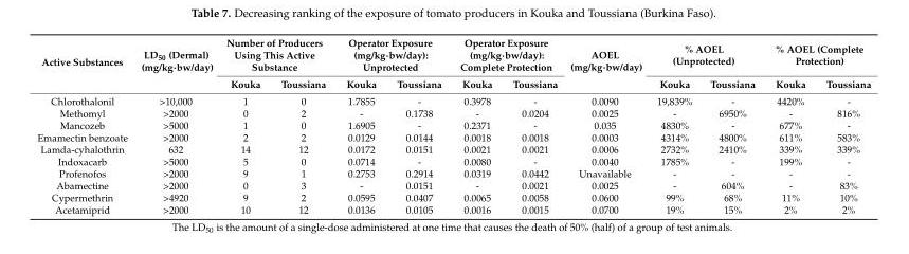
<table><thead><tr><td rowspan="2">Active Substances</td><td rowspan="2">LD<sub>50</sub> (Dermal) (mg/kg·bw/day)</td><td colspan="2">Number of Producers Using This Active Substance</td><td colspan="2">Operator Exposure (mg/kg·bw/day): Unprotected</td><td colspan="2">Operator Exposure (mg/kg·bw/day): Complete Protection</td><td rowspan="2">AOEL (mg/kg·bw/day)</td><td colspan="2">% AOEL (Unprotected)</td><td colspan="2">% AOEL (Complete Protection)</td></tr><tr><td>Kouka</td><td>Toussiana</td><td>Kouka</td><td>Toussiana</td><td>Kouka</td><td>Toussiana</td><td>Kouka</td><td>Toussiana</td><td>Kouka</td><td>Toussiana</td></tr></thead><tbody><tr><td>Chlorothalonil</td><td>&gt;10,000</td><td>1</td><td>0</td><td>1.7855</td><td>-</td><td>0.3978</td><td>-</td><td>0.0090</td><td>19,839%</td><td>-</td><td>4420%</td><td>-</td></tr><tr><td>Methomyl</td><td>&gt;2000</td><td>0</td><td>2</td><td>-</td><td>0.1738</td><td>-</td><td>0.0204</td><td>0.0025</td><td>-</td><td>6950%</td><td>-</td><td>816%</td></tr><tr><td>Mancozeb</td><td>&gt;5000</td><td>1</td><td>0</td><td>1.6905</td><td>-</td><td>0.2371</td><td>-</td><td>0.035</td><td>4830%</td><td>-</td><td>677%</td><td>-</td></tr><tr><td>Emamectin benzoate</td><td>&gt;2000</td><td>2</td><td>2</td><td>0.0129</td><td>0.0144</td><td>0.0018</td><td>0.0018</td><td>0.0003</td><td>4314%</td><td>4800%</td><td>611%</td><td>583%</td></tr><tr><td>Lamda-cyhalothrin</td><td>632</td><td>14</td><td>12</td><td>0.0172</td><td>0.0151</td><td>0.0021</td><td>0.0021</td><td>0.0006</td><td>2732%</td><td>2410%</td><td>339%</td><td>339%</td></tr><tr><td>Indoxacarb</td><td>&gt;5000</td><td>5</td><td>0</td><td>0.0714</td><td>-</td><td>0.0080</td><td>-</td><td>0.0040</td><td>1785%</td><td>-</td><td>199%</td><td>-</td></tr><tr><td>Profenofos</td><td>&gt;2000</td><td>9</td><td>1</td><td>0.2753</td><td>0.2914</td><td>0.0319</td><td>0.0442</td><td>Unavailable</td><td>-</td><td>-</td><td>-</td><td>-</td></tr><tr><td>Abamectine</td><td>&gt;2000</td><td>0</td><td>3</td><td>-</td><td>0.0151</td><td>-</td><td>0.0021</td><td>0.0025</td><td>-</td><td>604%</td><td>-</td><td>83%</td></tr><tr><td>Cypermethrin</td><td>&gt;4920</td><td>9</td><td>2</td><td>0.0595</td><td>0.0407</td><td>0.0065</td><td>0.0058</td><td>0.0600</td><td>99%</td><td>68%</td><td>11%</td><td>10%</td></tr><tr><td>Acetamiprid</td><td>&gt;2000</td><td>10</td><td>12</td><td>0.0136</td><td>0.0105</td><td>0.0016</td><td>0.0015</td><td>0.0700</td><td>19%</td><td>15%</td><td>2%</td><td>2%</td></tr></tbody></table>